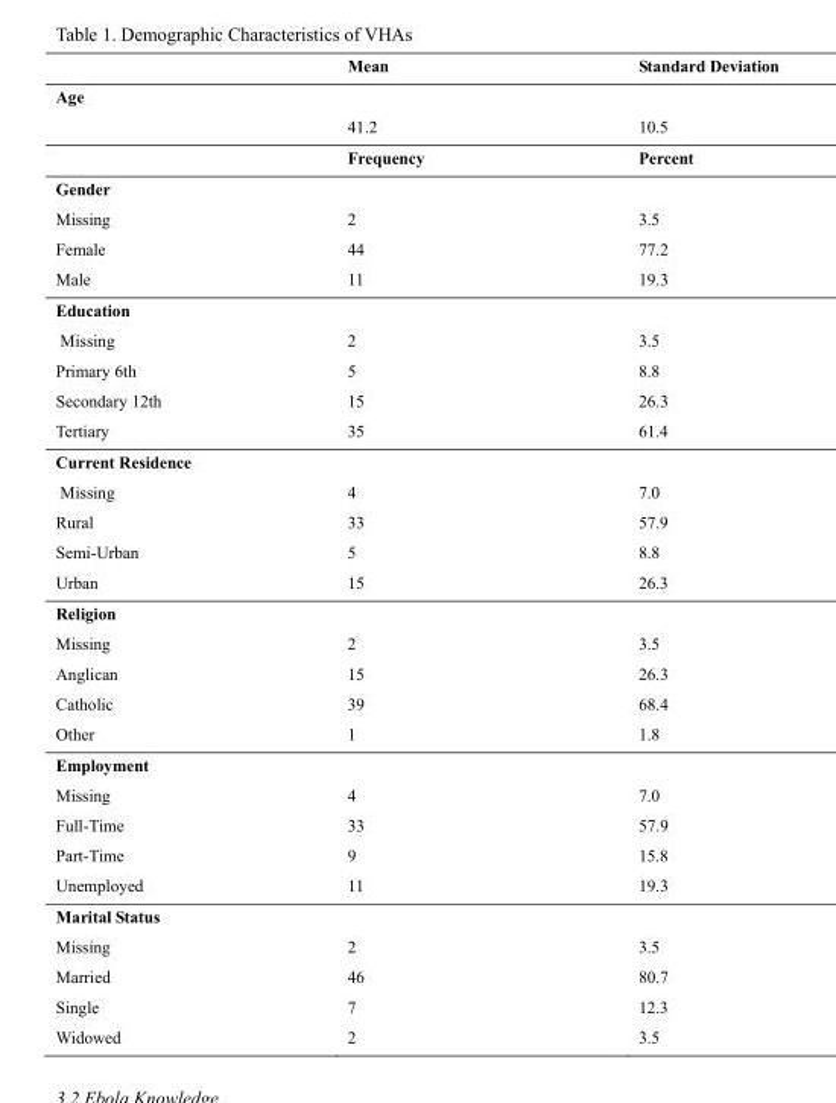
<table><thead><tr><td></td><td>Mean</td><td>Standard Deviation</td></tr></thead><tbody><tr><td colspan="3">Age</td></tr><tr><td></td><td>41.2</td><td>10.5</td></tr><tr><td></td><td>Frequency</td><td>Percent</td></tr><tr><td colspan="3">Gender</td></tr><tr><td>Missing</td><td>2</td><td>3.5</td></tr><tr><td>Female</td><td>44</td><td>77.2</td></tr><tr><td>Male</td><td>11</td><td>19.3</td></tr><tr><td colspan="3">Education</td></tr><tr><td>Missing</td><td>2</td><td>3.5</td></tr><tr><td>Primary 6th</td><td>5</td><td>8.8</td></tr><tr><td>Secondary 12th</td><td>15</td><td>26.3</td></tr><tr><td>Tertiary</td><td>35</td><td>61.4</td></tr><tr><td colspan="3">Current Residence</td></tr><tr><td>Missing</td><td>4</td><td>7.0</td></tr><tr><td>Rural</td><td>33</td><td>57.9</td></tr><tr><td>Semi-Urban</td><td>5</td><td>8.8</td></tr><tr><td>Urban</td><td>15</td><td>26.3</td></tr><tr><td colspan="3">Religion</td></tr><tr><td>Missing</td><td>2</td><td>3.5</td></tr><tr><td>Anglican</td><td>15</td><td>26.3</td></tr><tr><td>Catholic</td><td>39</td><td>68.4</td></tr><tr><td>Other</td><td>1</td><td>1.8</td></tr><tr><td colspan="3">Employment</td></tr><tr><td>Missing</td><td>4</td><td>7.0</td></tr><tr><td>Full-Time</td><td>33</td><td>57.9</td></tr><tr><td>Part-Time</td><td>9</td><td>15.8</td></tr><tr><td>Unemployed</td><td>11</td><td>19.3</td></tr><tr><td colspan="3">Marital Status</td></tr><tr><td>Missing</td><td>2</td><td>3.5</td></tr><tr><td>Married</td><td>46</td><td>80.7</td></tr><tr><td>Single</td><td>7</td><td>12.3</td></tr><tr><td>Widowed</td><td>2</td><td>3.5</td></tr></tbody></table>